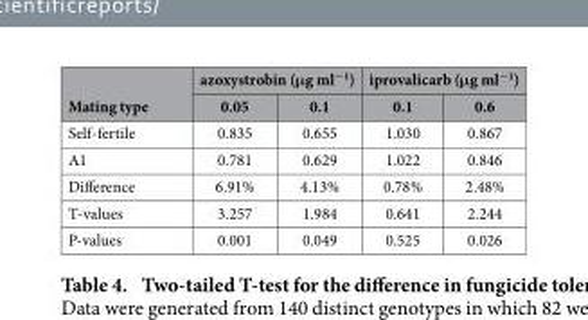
<table><thead><tr><td rowspan="2">Mating type</td><td colspan="2">azoxystrobin (μg ml<sup>−1</sup>)</td><td colspan="2">iprovalicarb (μg ml<sup>−1</sup>)</td></tr><tr><td>0.05</td><td>0.1</td><td>0.1</td><td>0.6</td></tr></thead><tbody><tr><td>Self-fertile</td><td>0.835</td><td>0.655</td><td>1.030</td><td>0.867</td></tr><tr><td>A1</td><td>0.781</td><td>0.629</td><td>1.022</td><td>0.846</td></tr><tr><td>Difference</td><td>6.91%</td><td>4.13%</td><td>0.78%</td><td>2.48%</td></tr><tr><td>T-values</td><td>3.257</td><td>1.984</td><td>0.641</td><td>2.244</td></tr><tr><td>P-values</td><td>0.001</td><td>0.049</td><td>0.525</td><td>0.026</td></tr></tbody></table>